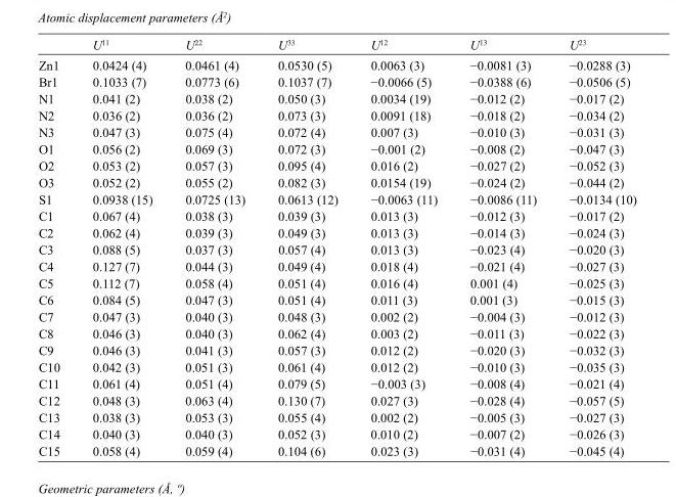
<table><thead><tr><td></td><td>U<sup>11</sup></td><td>U<sup>22</sup></td><td>U<sup>33</sup></td><td>U<sup>12</sup></td><td>U<sup>13</sup></td><td>U<sup>23</sup></td></tr></thead><tbody><tr><td>Zn1</td><td>0.0424 (4)</td><td>0.0461 (4)</td><td>0.0530 (5)</td><td>0.0063 (3)</td><td>−0.0081 (3)</td><td>−0.0288 (3)</td></tr><tr><td>Br1</td><td>0.1033 (7)</td><td>0.0773 (6)</td><td>0.1037 (7)</td><td>−0.0066 (5)</td><td>−0.0388 (6)</td><td>−0.0506 (5)</td></tr><tr><td>N1</td><td>0.041 (2)</td><td>0.038 (2)</td><td>0.050 (3)</td><td>0.0034 (19)</td><td>−0.012 (2)</td><td>−0.017 (2)</td></tr><tr><td>N2</td><td>0.036 (2)</td><td>0.036 (2)</td><td>0.073 (3)</td><td>0.0091 (18)</td><td>−0.018 (2)</td><td>−0.034 (2)</td></tr><tr><td>N3</td><td>0.047 (3)</td><td>0.075 (4)</td><td>0.072 (4)</td><td>0.007 (3)</td><td>−0.010 (3)</td><td>−0.031 (3)</td></tr><tr><td>O1</td><td>0.056 (2)</td><td>0.069 (3)</td><td>0.072 (3)</td><td>−0.001 (2)</td><td>−0.008 (2)</td><td>−0.047 (3)</td></tr><tr><td>O2</td><td>0.053 (2)</td><td>0.057 (3)</td><td>0.095 (4)</td><td>0.016 (2)</td><td>−0.027 (2)</td><td>−0.052 (3)</td></tr><tr><td>O3</td><td>0.052 (2)</td><td>0.055 (2)</td><td>0.082 (3)</td><td>0.0154 (19)</td><td>−0.024 (2)</td><td>−0.044 (2)</td></tr><tr><td>S1</td><td>0.0938 (15)</td><td>0.0725 (13)</td><td>0.0613 (12)</td><td>−0.0063 (11)</td><td>−0.0086 (11)</td><td>−0.0134 (10)</td></tr><tr><td>C1</td><td>0.067 (4)</td><td>0.038 (3)</td><td>0.039 (3)</td><td>0.013 (3)</td><td>−0.012 (3)</td><td>−0.017 (2)</td></tr><tr><td>C2</td><td>0.062 (4)</td><td>0.039 (3)</td><td>0.049 (3)</td><td>0.013 (3)</td><td>−0.014 (3)</td><td>−0.024 (3)</td></tr><tr><td>C3</td><td>0.088 (5)</td><td>0.037 (3)</td><td>0.057 (4)</td><td>0.013 (3)</td><td>−0.023 (4)</td><td>−0.020 (3)</td></tr><tr><td>C4</td><td>0.127 (7)</td><td>0.044 (3)</td><td>0.049 (4)</td><td>0.018 (4)</td><td>−0.021 (4)</td><td>−0.027 (3)</td></tr><tr><td>C5</td><td>0.112 (7)</td><td>0.058 (4)</td><td>0.051 (4)</td><td>0.016 (4)</td><td>0.001 (4)</td><td>−0.025 (3)</td></tr><tr><td>C6</td><td>0.084 (5)</td><td>0.047 (3)</td><td>0.051 (4)</td><td>0.011 (3)</td><td>0.001 (3)</td><td>−0.015 (3)</td></tr><tr><td>C7</td><td>0.047 (3)</td><td>0.040 (3)</td><td>0.048 (3)</td><td>0.002 (2)</td><td>−0.004 (3)</td><td>−0.012 (3)</td></tr><tr><td>C8</td><td>0.046 (3)</td><td>0.040 (3)</td><td>0.062 (4)</td><td>0.003 (2)</td><td>−0.011 (3)</td><td>−0.022 (3)</td></tr><tr><td>C9</td><td>0.046 (3)</td><td>0.041 (3)</td><td>0.057 (3)</td><td>0.012 (2)</td><td>−0.020 (3)</td><td>−0.032 (3)</td></tr><tr><td>C10</td><td>0.042 (3)</td><td>0.051 (3)</td><td>0.061 (4)</td><td>0.012 (2)</td><td>−0.010 (3)</td><td>−0.035 (3)</td></tr><tr><td>C11</td><td>0.061 (4)</td><td>0.051 (4)</td><td>0.079 (5)</td><td>−0.003 (3)</td><td>−0.008 (4)</td><td>−0.021 (4)</td></tr><tr><td>C12</td><td>0.048 (3)</td><td>0.063 (4)</td><td>0.130 (7)</td><td>0.027 (3)</td><td>−0.028 (4)</td><td>−0.057 (5)</td></tr><tr><td>C13</td><td>0.038 (3)</td><td>0.053 (3)</td><td>0.055 (4)</td><td>0.002 (2)</td><td>−0.005 (3)</td><td>−0.027 (3)</td></tr><tr><td>C14</td><td>0.040 (3)</td><td>0.040 (3)</td><td>0.052 (3)</td><td>0.010 (2)</td><td>−0.007 (2)</td><td>−0.026 (3)</td></tr><tr><td>C15</td><td>0.058 (4)</td><td>0.059 (4)</td><td>0.104 (6)</td><td>0.023 (3)</td><td>−0.031 (4)</td><td>−0.045 (4)</td></tr></tbody></table>